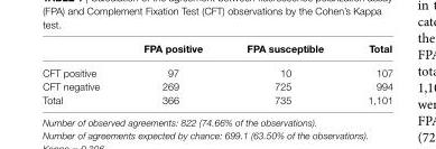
<table><thead><tr><td></td><td>FPA positive</td><td>FPA susceptible</td><td>total</td></tr></thead><tbody><tr><td>CFT positive</td><td>97</td><td>10</td><td>107</td></tr><tr><td>CFT negative</td><td>269</td><td>725</td><td>994</td></tr><tr><td>Total</td><td>366</td><td>735</td><td>1,101</td></tr></tbody></table>